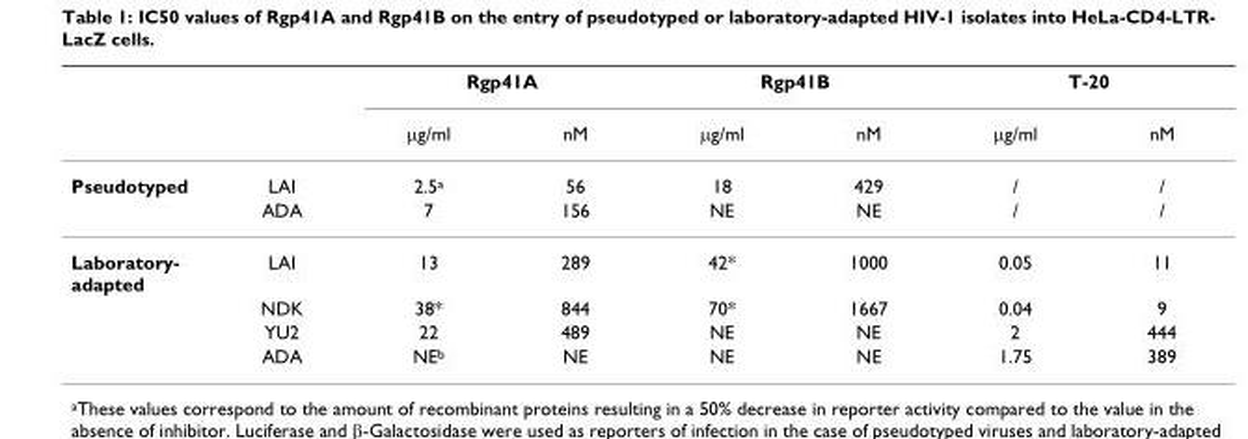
<table><thead><tr><td rowspan="2"></td><td rowspan="2"></td><td colspan="2">Rgp41A</td><td colspan="2">Rgp41B</td><td colspan="2">T-20</td></tr><tr><td>µg/ml</td><td>nM</td><td>µg/ml</td><td>nM</td><td>µg/ml</td><td>nM</td></tr></thead><tbody><tr><td rowspan="2">Pseudotyped</td><td>LAI</td><td>2.5<sup>a</sup></td><td>56</td><td>18</td><td>429</td><td>/</td><td>/</td></tr><tr><td>ADA</td><td>7</td><td>156</td><td>NE</td><td>NE</td><td>/</td><td>/</td></tr><tr><td rowspan="4">Laboratory- adapted</td><td>LAI</td><td>13</td><td>289</td><td>42*</td><td>1000</td><td>0.05</td><td>11</td></tr><tr><td>NDK</td><td>38*</td><td>844</td><td>70*</td><td>1667</td><td>0.04</td><td>9</td></tr><tr><td>YU2</td><td>22</td><td>489</td><td>NE</td><td>NE</td><td>2</td><td>444</td></tr><tr><td>ADA</td><td>NE<sup>b</sup></td><td>NE</td><td>NE</td><td>NE</td><td>1.75</td><td>389</td></tr></tbody></table>